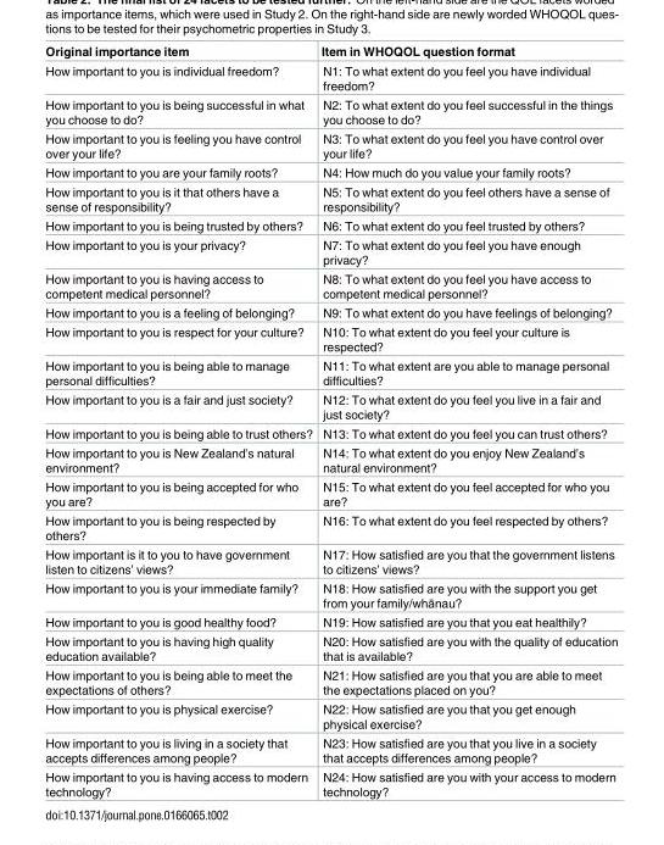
<table><thead><tr><td>Original importance item</td><td>Item in WHOQOL question format</td></tr></thead><tbody><tr><td>How important to you is individual freedom?</td><td>N1: To what extent do you feel you have individual freedom?</td></tr><tr><td>How important to you is being successful in what you choose to do?</td><td>N2: To what extent do you feel successful in the things you choose to do?</td></tr><tr><td>How important to you is feeling you have control over your life?</td><td>N3: To what extent do you feel you have control over your life?</td></tr><tr><td>How important to you are your family roots?</td><td>N4: How much do you value your family roots?</td></tr><tr><td>How important to you is it that others have a sense of responsibility?</td><td>N5: To what extent do you feel others have a sense of responsibility?</td></tr><tr><td>How important to you is being trusted by others?</td><td>N6: To what extent do you feel trusted by others?</td></tr><tr><td>How important to you is your privacy?</td><td>N7: To what extent do you feel you have enough privacy?</td></tr><tr><td>How important to you is having access to competent medical personnel?</td><td>N8: To what extent do you feel you have access to competent medical personnel?</td></tr><tr><td>How important to you is a feeling of belonging?</td><td>N9: To what extent do you have feelings of belonging?</td></tr><tr><td>How important to you is respect for your culture?</td><td>N10: To what extent do you feel your culture is respected?</td></tr><tr><td>How important to you is being able to manage personal difficulties?</td><td>N11: To what extent are you able to manage personal difficulties?</td></tr><tr><td>How important to you is a fair and just society?</td><td>N12: To what extent do you feel you live in a fair and just society?</td></tr><tr><td>How important to you is being able to trust others?</td><td>N13: To what extent do you feel you can trust others?</td></tr><tr><td>How important to you is New Zealand’s natural environment?</td><td>N14: To what extent do you enjoy New Zealand’s natural environment?</td></tr><tr><td>How important to you is being accepted for who you are?</td><td>N15: To what extent do you feel accepted for who you are?</td></tr><tr><td>How important to you is being respected by others?</td><td>N16: To what extent do you feel respected by others?</td></tr><tr><td>How important is it to you to have government listen to citizens’ views?</td><td>N17: How satisfied are you that the government listens to citizens’ views?</td></tr><tr><td>How important to you is your immediate family?</td><td>N18: How satisfied are you with the support you get from your family/whānau?</td></tr><tr><td>How important to you is good healthy food?</td><td>N19: How satisfied are you that you eat healthily?</td></tr><tr><td>How important to you is having high quality education available?</td><td>N20: How satisfied are you with the quality of education that is available?</td></tr><tr><td>How important to you is being able to meet the expectations of others?</td><td>N21: How satisfied are you that you are able to meet the expectations placed on you?</td></tr><tr><td>How important to you is physical exercise?</td><td>N22: How satisfied are you that you get enough physical exercise?</td></tr><tr><td>How important to you is living in a society that accepts differences among people?</td><td>N23: How satisfied are you that you live in a society that accepts differences among people?</td></tr><tr><td>How important to you is having access to modern technology?</td><td>N24: How satisfied are you with your access to modern technology?</td></tr></tbody></table>